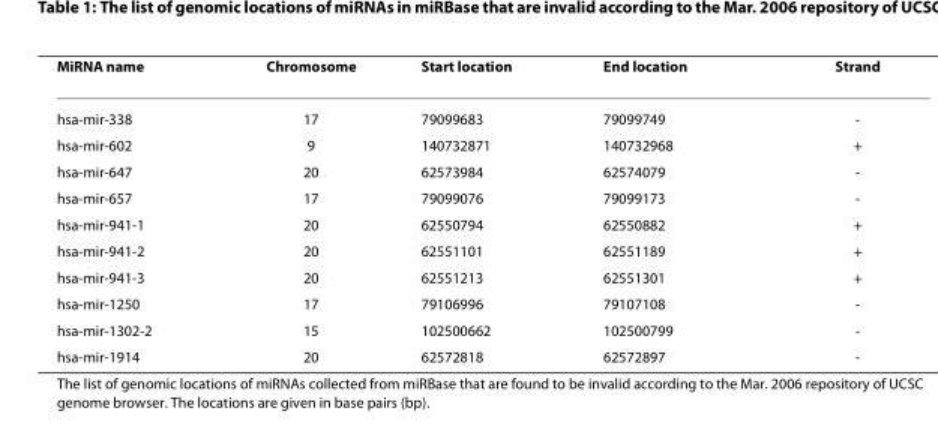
<table><thead><tr><td>MiRNA name</td><td>Chromosome</td><td>Start location</td><td>End location</td><td>Strand</td></tr></thead><tbody><tr><td>hsa-mir-338</td><td>17</td><td>79099683</td><td>79099749</td><td>-</td></tr><tr><td>hsa-mir-602</td><td>9</td><td>140732871</td><td>140732968</td><td>+</td></tr><tr><td>hsa-mir-647</td><td>20</td><td>62573984</td><td>62574079</td><td>-</td></tr><tr><td>hsa-mir-657</td><td>17</td><td>79099076</td><td>79099173</td><td>-</td></tr><tr><td>hsa-mir-941-1</td><td>20</td><td>62550794</td><td>62550882</td><td>+</td></tr><tr><td>hsa-mir-941-2</td><td>20</td><td>62551101</td><td>62551189</td><td>+</td></tr><tr><td>hsa-mir-941-3</td><td>20</td><td>62551213</td><td>62551301</td><td>+</td></tr><tr><td>hsa-mir-1250</td><td>17</td><td>79106996</td><td>79107108</td><td>-</td></tr><tr><td>hsa-mir-1302-2</td><td>15</td><td>102500662</td><td>102500799</td><td>-</td></tr><tr><td>hsa-mir-1914</td><td>20</td><td>62572818</td><td>62572897</td><td>-</td></tr></tbody></table>